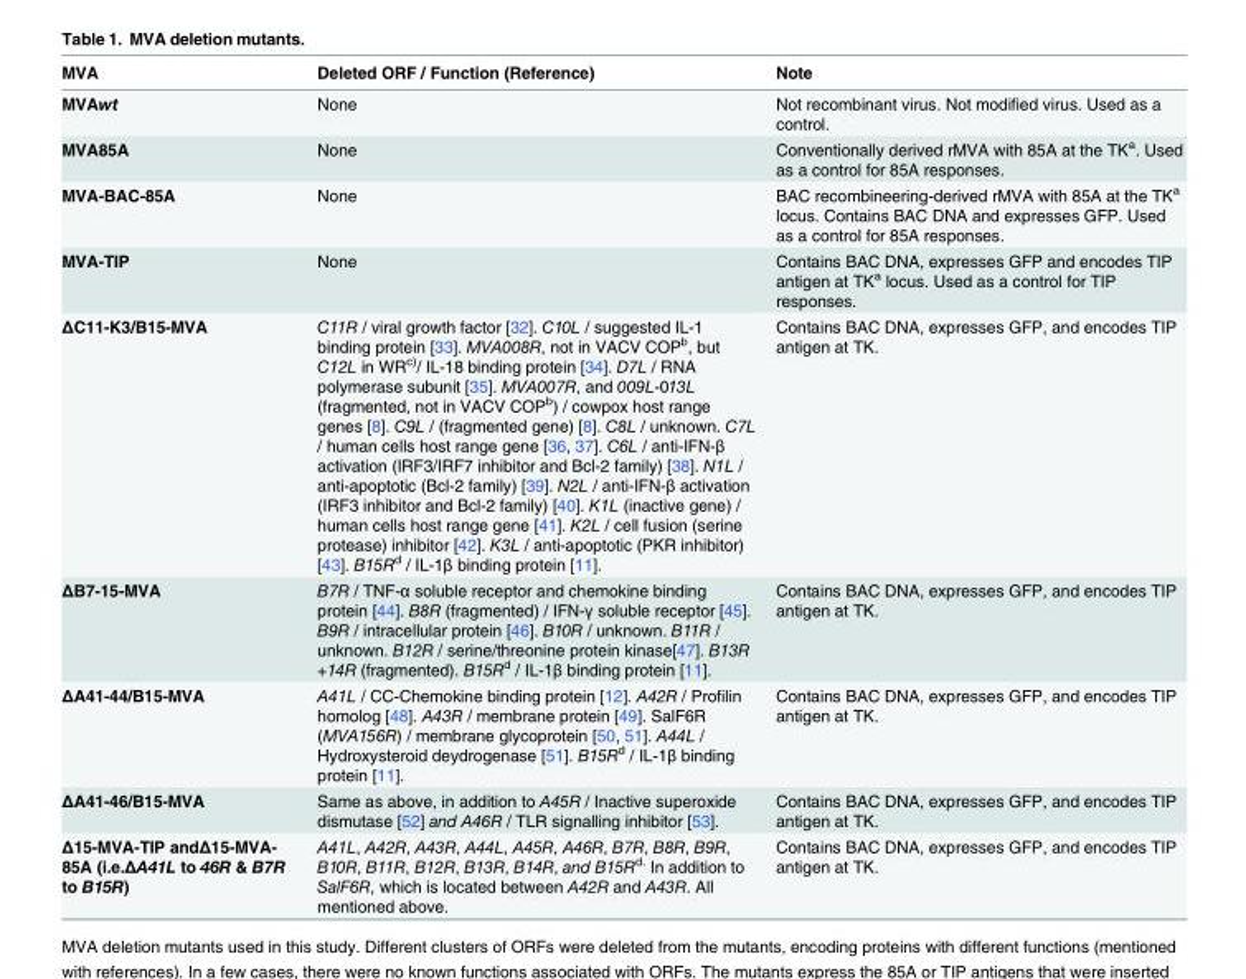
<table><thead><tr><td>MVA</td><td>Deleted ORF / Function (Reference)</td><td>Note</td></tr></thead><tbody><tr><td>MVAwt</td><td>None</td><td>Not recombinant virus. Not modified virus. Used as a control.</td></tr><tr><td>MVA85A</td><td>None</td><td>Conventionally derived rMVA with 85A at the TK<sup>a</sup>. Used as a control for 85A responses.</td></tr><tr><td>MVA-BAC-85A</td><td>None</td><td>BAC recombineering-derived rMVA with 85A at the TK<sup>a</sup> locus. Contains BAC DNA and expresses GFP. Used as a control for 85A responses.</td></tr><tr><td>MVA-TIP</td><td>None</td><td>Contains BAC DNA, expresses GFP and encodes TIP antigen at TK<sup>a</sup> locus. Used as a control for TIP responses.</td></tr><tr><td>ΔC11-K3/B15-MVA</td><td>C11R / viral growth factor [32]. C10L / suggested IL-1 binding protein [33]. MVA008R, not in VACV COP<sup>b</sup>, but C12L in WR<sup>c)</sup>/ IL-18 binding protein [34]. D7L / RNA polymerase subunit [35]. MVA007R, and 009L-013L (fragmented, not in VACV COP<sup>b</sup>) / cowpox host range genes [8]. C9L / (fragmented gene) [8]. C8L / unknown. C7L / human cells host range gene [36, 37]. C6L / anti-IFN-β activation (IRF3/IRF7 inhibitor and Bcl-2 family) [38]. N1L / anti-apoptotic (Bcl-2 family) [39]. N2L / anti-IFN-β activation (IRF3 inhibitor and Bcl-2 family) [40]. K1L (inactive gene) / human cells host range gene [41]. K2L / cell fusion (serine protease) inhibitor [42]. K3L / anti-apoptotic (PKR inhibitor) [43]. B15R<sup>d</sup> / IL-1β binding protein [11].</td><td>Contains BAC DNA, expresses GFP, and encodes TIP antigen at TK.</td></tr><tr><td>ΔB7-15-MVA</td><td>B7R / TNF-α soluble receptor and chemokine binding protein [44]. B8R (fragmented) / IFN-γ soluble receptor [45]. B9R / intracellular protein [46]. B10R / unknown. B11R / unknown. B12R / serine/threonine protein kinase[47]. B13R +14R (fragmented). B15R<sup>d</sup> / IL-1β binding protein [11].</td><td>Contains BAC DNA, expresses GFP, and encodes TIP antigen at TK.</td></tr><tr><td>ΔA41-44/B15-MVA</td><td>A41L / CC-Chemokine binding protein [12]. A42R / Profilin homolog [48]. A43R / membrane protein [49]. SalF6R (MVA156R) / membrane glycoprotein [50, 51]. A44L / Hydroxysteroid deydrogenase [51]. B15R<sup>d</sup> / IL-1β binding protein [11].</td><td>Contains BAC DNA, expresses GFP, and encodes TIP antigen at TK.</td></tr><tr><td>ΔA41-46/B15-MVA</td><td>Same as above, in addition to A45R / Inactive superoxide dismutase [52] and A46R / TLR signalling inhibitor [53].</td><td>Contains BAC DNA, expresses GFP, and encodes TIP antigen at TK.</td></tr><tr><td>Δ15-MVA-TIP andΔ15-MVA- 85A (i.e.ΔA41L to 46R &amp; B7R to B15R)</td><td>A41L, A42R, A43R, A44L, A45R, A46R, B7R, B8R, B9R, B10R, B11R, B12R, B13R, B14R, and B15R<sup>d.</sup> In addition to SalF6R, which is located between A42R and A43R. All mentioned above.</td><td>Contains BAC DNA, expresses GFP, and encodes TIP antigen at TK.</td></tr></tbody></table>